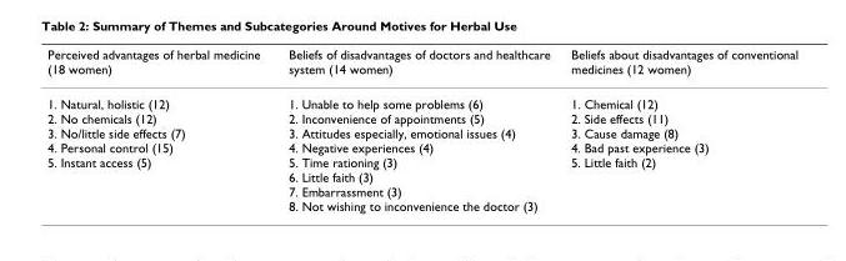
<table><thead><tr><td>Perceived advantages of herbal medicine (18 women)</td><td>Beliefs of disadvantages of doctors and healthcare system (14 women)</td><td>Beliefs about disadvantages of conventional medicines (12 women)</td></tr></thead><tbody><tr><td>1. Natural, holistic (12) 2. No chemicals (12) 3. No/little side effects (7) 4. Personal control (15) 5. Instant access (5)</td><td>1. Unable to help some problems (6) 2. Inconvenience of appointments (5) 3. Attitudes especially, emotional issues (4) 4. Negative experiences (4) 5. Time rationing (3) 6. Little faith (3) 7. Embarrassment (3) 8. Not wishing to inconvenience the doctor (3)</td><td>1. Chemical (12) 2. Side effects (11) 3. Cause damage (8) 4. Bad past experience (3) 5. Little faith (2)</td></tr></tbody></table>